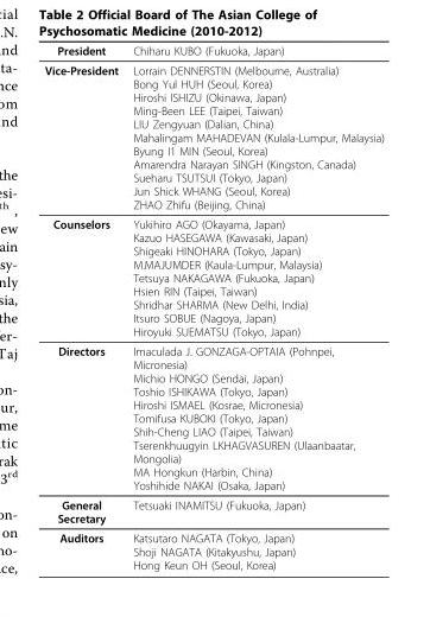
<table><thead><tr><td>President</td><td>Chiharu KUBO (Fukuoka, Japan)</td></tr></thead><tbody><tr><td>Vice-President</td><td>Lorrain DENNERSTIN (Melbourne, Australia) Bong Yul HUH (Seoul, Korea) Hiroshi ISHIZU (Okinawa, Japan) Ming-Been LEE (Taipei, Taiwan) LIU Zengyuan (Dalian, China) Mahalingam MAHADEVAN (Kulala-Lumpur, Malaysia) Byung I1 MIN (Seoul, Korea) Amarendra Narayan SINGH (Kingston, Canada) Sueharu TSUTSUI (Tokyo, Japan) Jun Shick WHANG (Seoul, Korea) ZHAO Zhifu (Beijing, China)</td></tr><tr><td>Counselors</td><td>Yukihiro AGO (Okayama, Japan) Kazuo HASEGAWA (Kawasaki, Japan) Shigeaki HINOHARA (Tokyo, Japan) M.MAJUMDER (Kaula-Lumpur, Malaysia) Tetsuya NAKAGAWA (Fukuoka, Japan) Hsien RIN (Taipei, Taiwan) Shridhar SHARMA (New Delhi, India) Itsuro SOBUE (Nagoya, Japan) Hiroyuki SUEMATSU (Tokyo, Japan)</td></tr><tr><td>Directors</td><td>Imaculada J. GONZAGA-OPTAIA (Pohnpei, Micronesia) Michio HONGO (Sendai, Japan) Toshio ISHIKAWA (Tokyo, Japan) Hiroshi ISMAEL (Kosrae, Micronesia) Tomifusa KUBOKI (Tokyo, Japan) Shih-Cheng LIAO (Taipei, Taiwan) Tserenkhuugyin LKHAGVASUREN (Ulaanbaatar, Mongolia) MA Hongkun (Harbin, China) Yoshihide NAKAI (Osaka, Japan)</td></tr><tr><td>General Secretary</td><td>Tetsuaki INAMITSU (Fukuoka, Japan)</td></tr><tr><td>Auditors</td><td>Katsutaro NAGATA (Tokyo, Japan) Shoji NAGATA (Kitakyushu, Japan) Hong Keun OH (Seoul, Korea)</td></tr></tbody></table>